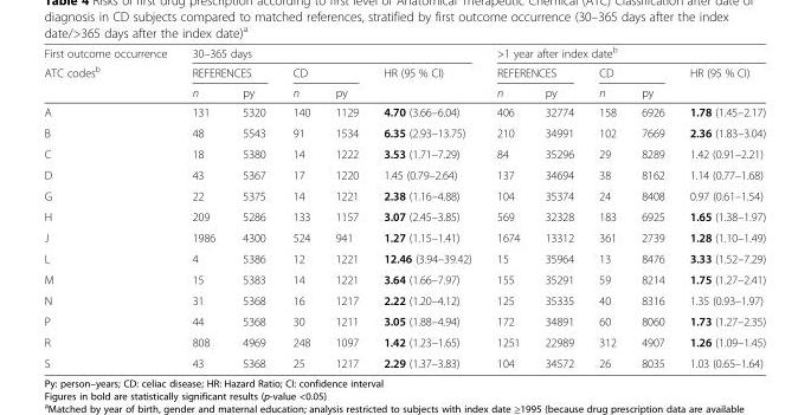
<table><thead><tr><td rowspan="3">First outcome occurrence ATC codes<sup>b</sup></td><td colspan="5">30–365 days</td><td colspan="5">&gt;1 year after index date<sup>b</sup></td></tr><tr><td colspan="2">REFERENCES</td><td colspan="2">CD</td><td rowspan="2">HR (95 % CI)</td><td colspan="2">REFERENCES</td><td colspan="2">CD</td><td rowspan="2">HR (95 % CI)</td></tr><tr><td>n</td><td>py</td><td>n</td><td>py</td><td>n</td><td>py</td><td>n</td><td>py</td></tr></thead><tbody><tr><td>A</td><td>131</td><td>5320</td><td>140</td><td>1129</td><td>4.70 (3.66–6.04)</td><td>406</td><td>32774</td><td>158</td><td>6926</td><td>1.78 (1.45–2.17)</td></tr><tr><td>B</td><td>48</td><td>5543</td><td>91</td><td>1534</td><td>6.35 (2.93–13.75)</td><td>210</td><td>34991</td><td>102</td><td>7669</td><td>2.36 (1.83–3.04)</td></tr><tr><td>C</td><td>18</td><td>5380</td><td>14</td><td>1222</td><td>3.53 (1.71–7.29)</td><td>84</td><td>35296</td><td>29</td><td>8289</td><td>1.42 (0.91–2.21)</td></tr><tr><td>D</td><td>43</td><td>5367</td><td>17</td><td>1220</td><td>1.45 (0.79–2.64)</td><td>137</td><td>34694</td><td>38</td><td>8162</td><td>1.14 (0.77–1.68)</td></tr><tr><td>G</td><td>22</td><td>5375</td><td>14</td><td>1221</td><td>2.38 (1.16–4.88)</td><td>104</td><td>35374</td><td>24</td><td>8408</td><td>0.97 (0.61–1.54)</td></tr><tr><td>H</td><td>209</td><td>5286</td><td>133</td><td>1157</td><td>3.07 (2.45–3.85)</td><td>569</td><td>32328</td><td>183</td><td>6925</td><td>1.65 (1.38–1.97)</td></tr><tr><td>J</td><td>1986</td><td>4300</td><td>524</td><td>941</td><td>1.27 (1.15–1.41)</td><td>1674</td><td>13312</td><td>361</td><td>2739</td><td>1.28 (1.10–1.49)</td></tr><tr><td>L</td><td>4</td><td>5386</td><td>12</td><td>1221</td><td>12.46 (3.94–39.42)</td><td>15</td><td>35964</td><td>13</td><td>8476</td><td>3.33 (1.52–7.29)</td></tr><tr><td>M</td><td>15</td><td>5383</td><td>14</td><td>1221</td><td>3.64 (1.66–7.97)</td><td>155</td><td>35291</td><td>59</td><td>8214</td><td>1.75 (1.27–2.41)</td></tr><tr><td>N</td><td>31</td><td>5368</td><td>16</td><td>1217</td><td>2.22 (1.20–4.12)</td><td>125</td><td>35335</td><td>40</td><td>8316</td><td>1.35 (0.93–1.97)</td></tr><tr><td>P</td><td>44</td><td>5368</td><td>30</td><td>1211</td><td>3.05 (1.88–4.94)</td><td>172</td><td>34891</td><td>60</td><td>8060</td><td>1.73 (1.27–2.35)</td></tr><tr><td>R</td><td>808</td><td>4969</td><td>248</td><td>1097</td><td>1.42 (1.23–1.65)</td><td>1251</td><td>22989</td><td>312</td><td>4907</td><td>1.26 (1.09–1.45)</td></tr><tr><td>S</td><td>43</td><td>5368</td><td>25</td><td>1217</td><td>2.29 (1.37–3.83)</td><td>104</td><td>34572</td><td>26</td><td>8035</td><td>1.03 (0.65–1.64)</td></tr></tbody></table>